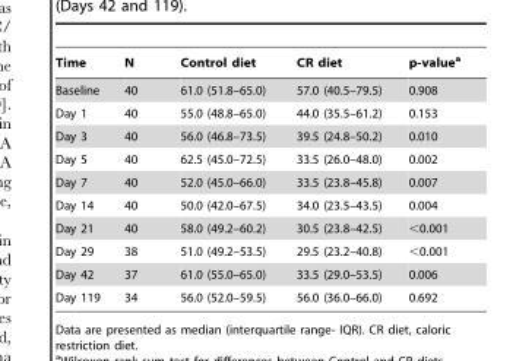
<table><thead><tr><td>Time</td><td>N</td><td>Control diet</td><td>CR diet</td><td>p-value<sup>a</sup></td></tr></thead><tbody><tr><td>Baseline</td><td>40</td><td>61.0 (51.8–65.0)</td><td>57.0 (40.5–79.5)</td><td>0.908</td></tr><tr><td>Day 1</td><td>40</td><td>55.0 (48.8–65.0)</td><td>44.0 (35.5–61.2)</td><td>0.153</td></tr><tr><td>Day 3</td><td>40</td><td>56.0 (46.8–73.5)</td><td>39.5 (24.8–50.2)</td><td>0.010</td></tr><tr><td>Day 5</td><td>40</td><td>62.5 (45.0–72.5)</td><td>33.5 (26.0–48.0)</td><td>0.002</td></tr><tr><td>Day 7</td><td>40</td><td>52.0 (45.0–66.0)</td><td>33.5 (23.8–45.8)</td><td>0.007</td></tr><tr><td>Day 14</td><td>40</td><td>50.0 (42.0–67.5)</td><td>34.0 (23.5–43.5)</td><td>0.004</td></tr><tr><td>Day 21</td><td>40</td><td>58.0 (49.2–60.2)</td><td>30.5 (23.8–42.5)</td><td>&lt;0.001</td></tr><tr><td>Day 29</td><td>38</td><td>51.0 (49.2–53.5)</td><td>29.5 (23.2–40.8)</td><td>&lt;0.001</td></tr><tr><td>Day 42</td><td>37</td><td>61.0 (55.0–65.0)</td><td>33.5 (29.0–53.5)</td><td>0.006</td></tr><tr><td>Day 119</td><td>34</td><td>56.0 (52.0–59.5)</td><td>56.0 (36.0–66.0)</td><td>0.692</td></tr></tbody></table>